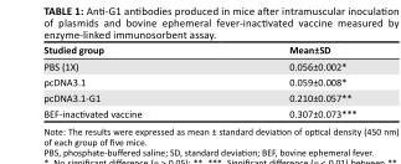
<table><thead><tr><td>Studied group</td><td>Mean±SD</td></tr></thead><tbody><tr><td>PBS (1X)</td><td>0.056±0.002*</td></tr><tr><td>pcDNA3.1</td><td>0.059±0.008*</td></tr><tr><td>pcDNA3.1-G1</td><td>0.210±0.057**</td></tr><tr><td>BEF-inactivated vaccine</td><td>0.307±0.073***</td></tr></tbody></table>